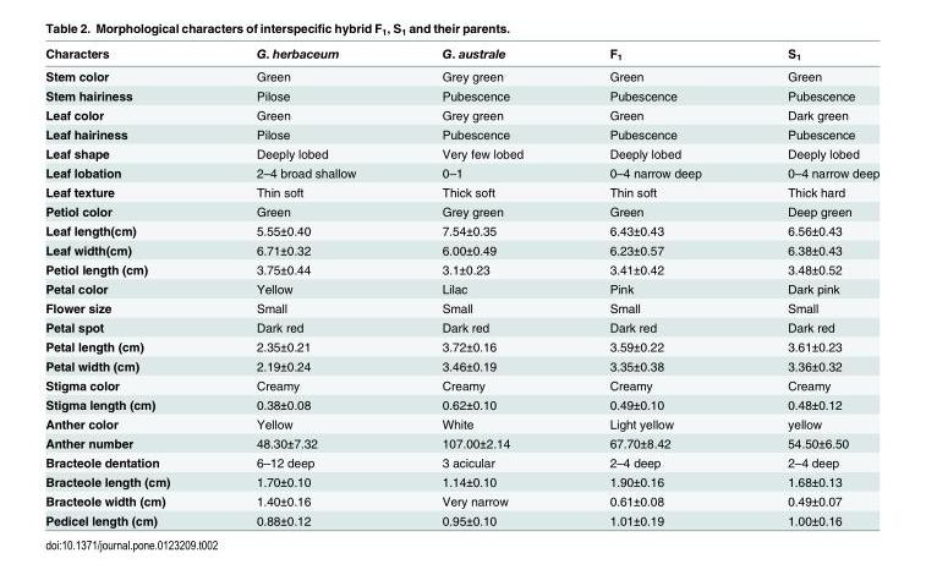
<table><thead><tr><td>Characters</td><td>G. herbaceum</td><td>G. australe</td><td>F<sub>1</sub></td><td>S<sub>1</sub></td></tr></thead><tbody><tr><td>Stem color</td><td>Green</td><td>Grey green</td><td>Green</td><td>Green</td></tr><tr><td>Stem hairiness</td><td>Pilose</td><td>Pubescence</td><td>Pubescence</td><td>Pubescence</td></tr><tr><td>Leaf color</td><td>Green</td><td>Grey green</td><td>Green</td><td>Dark green</td></tr><tr><td>Leaf hairiness</td><td>Pilose</td><td>Pubescence</td><td>Pubescence</td><td>Pubescence</td></tr><tr><td>Leaf shape</td><td>Deeply lobed</td><td>Very few lobed</td><td>Deeply lobed</td><td>Deeply lobed</td></tr><tr><td>Leaf lobation</td><td>2–4 broad shallow</td><td>0–1</td><td>0–4 narrow deep</td><td>0–4 narrow deep</td></tr><tr><td>Leaf texture</td><td>Thin soft</td><td>Thick soft</td><td>Thin soft</td><td>Thick hard</td></tr><tr><td>Petiol color</td><td>Green</td><td>Grey green</td><td>Green</td><td>Deep green</td></tr><tr><td>Leaf length(cm)</td><td>5.55±0.40</td><td>7.54±0.35</td><td>6.43±0.43</td><td>6.56±0.43</td></tr><tr><td>Leaf width(cm)</td><td>6.71±0.32</td><td>6.00±0.49</td><td>6.23±0.57</td><td>6.38±0.43</td></tr><tr><td>Petiol length (cm)</td><td>3.75±0.44</td><td>3.1±0.23</td><td>3.41±0.42</td><td>3.48±0.52</td></tr><tr><td>Petal color</td><td>Yellow</td><td>Lilac</td><td>Pink</td><td>Dark pink</td></tr><tr><td>Flower size</td><td>Small</td><td>Small</td><td>Small</td><td>Small</td></tr><tr><td>Petal spot</td><td>Dark red</td><td>Dark red</td><td>Dark red</td><td>Dark red</td></tr><tr><td>Petal length (cm)</td><td>2.35±0.21</td><td>3.72±0.16</td><td>3.59±0.22</td><td>3.61±0.23</td></tr><tr><td>Petal width (cm)</td><td>2.19±0.24</td><td>3.46±0.19</td><td>3.35±0.38</td><td>3.36±0.32</td></tr><tr><td>Stigma color</td><td>Creamy</td><td>Creamy</td><td>Creamy</td><td>Creamy</td></tr><tr><td>Stigma length (cm)</td><td>0.38±0.08</td><td>0.62±0.10</td><td>0.49±0.10</td><td>0.48±0.12</td></tr><tr><td>Anther color</td><td>Yellow</td><td>White</td><td>Light yellow</td><td>yellow</td></tr><tr><td>Anther number</td><td>48.30±7.32</td><td>107.00±2.14</td><td>67.70±8.42</td><td>54.50±6.50</td></tr><tr><td>Bracteole dentation</td><td>6–12 deep</td><td>3 acicular</td><td>2–4 deep</td><td>2–4 deep</td></tr><tr><td>Bracteole length (cm)</td><td>1.70±0.10</td><td>1.14±0.10</td><td>1.90±0.16</td><td>1.68±0.13</td></tr><tr><td>Bracteole width (cm)</td><td>1.40±0.16</td><td>Very narrow</td><td>0.61±0.08</td><td>0.49±0.07</td></tr><tr><td>Pedicel length (cm)</td><td>0.88±0.12</td><td>0.95±0.10</td><td>1.01±0.19</td><td>1.00±0.16</td></tr></tbody></table>